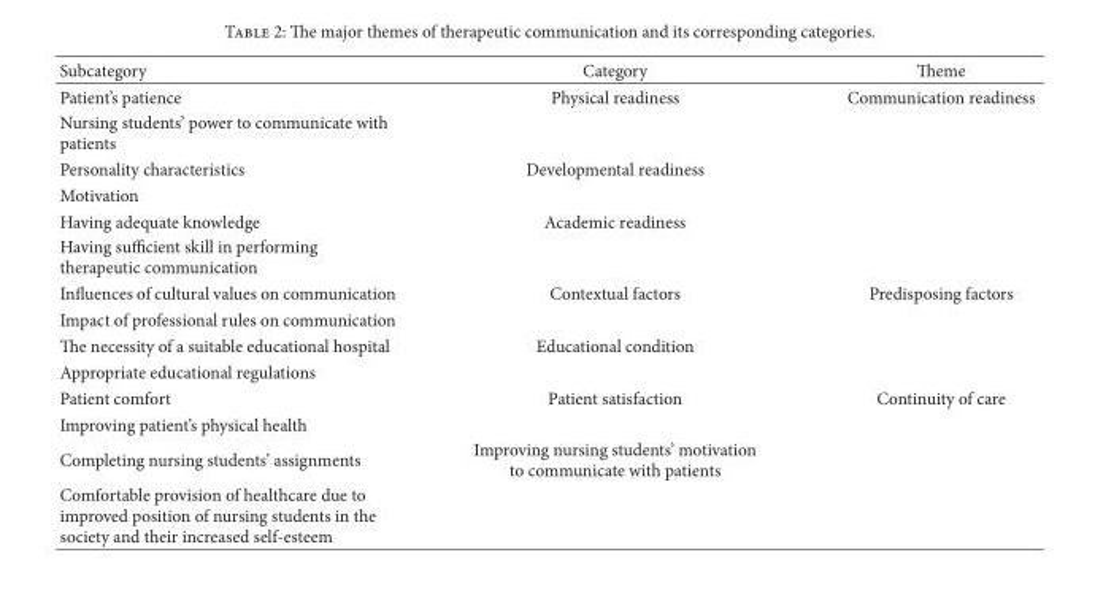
<table><thead><tr><td>Subcategory</td><td>Category</td><td>Theme</td></tr></thead><tbody><tr><td>Patient’s patience</td><td>Physical readiness</td><td>Communication readiness</td></tr><tr><td colspan="3">Nursing students’ power to communicate with patients</td></tr><tr><td>Personality characteristics</td><td>Developmental readiness</td><td></td></tr><tr><td colspan="3">Motivation</td></tr><tr><td>Having adequate knowledge</td><td>Academic readiness</td><td></td></tr><tr><td colspan="3">Having sufficient skill in performing therapeutic communication</td></tr><tr><td>Influences of cultural values on communication</td><td>Contextual factors</td><td>Predisposing factors</td></tr><tr><td colspan="3">Impact of professional rules on communication</td></tr><tr><td>The necessity of a suitable educational hospital</td><td>Educational condition</td><td></td></tr><tr><td colspan="3">Appropriate educational regulations</td></tr><tr><td>Patient comfort</td><td>Patient satisfaction</td><td>Continuity of care</td></tr><tr><td colspan="3">Improving patient’s physical health</td></tr><tr><td>Completing nursing students’ assignments</td><td>Improving nursing students’ motivation to communicate with patients</td><td></td></tr><tr><td>Comfortable provision of healthcare due to improved position of nursing students in the society and their increased self-esteem</td><td></td><td></td></tr></tbody></table>